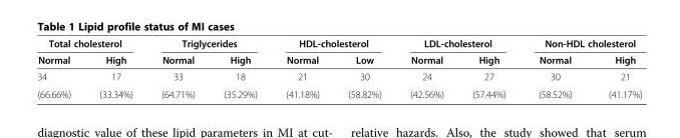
<table><thead><tr><td colspan="2">Total cholesterol</td><td colspan="2">Triglycerides</td><td colspan="2">HDL-cholesterol</td><td colspan="2">LDL-cholesterol</td><td colspan="2">Non-HDL cholesterol</td></tr><tr><td>Normal</td><td>High</td><td>Normal</td><td>High</td><td>Normal</td><td>Low</td><td>Normal</td><td>High</td><td>Normal</td><td>High</td></tr></thead><tbody><tr><td>34</td><td>17</td><td>33</td><td>18</td><td>21</td><td>30</td><td>24</td><td>27</td><td>30</td><td>21</td></tr><tr><td>(66.66%)</td><td>(33.34%)</td><td>(64.71%)</td><td>(35.29%)</td><td>(41.18%)</td><td>(58.82%)</td><td>(42.56%)</td><td>(57.44%)</td><td>(58.52%)</td><td>(41.17%)</td></tr></tbody></table>